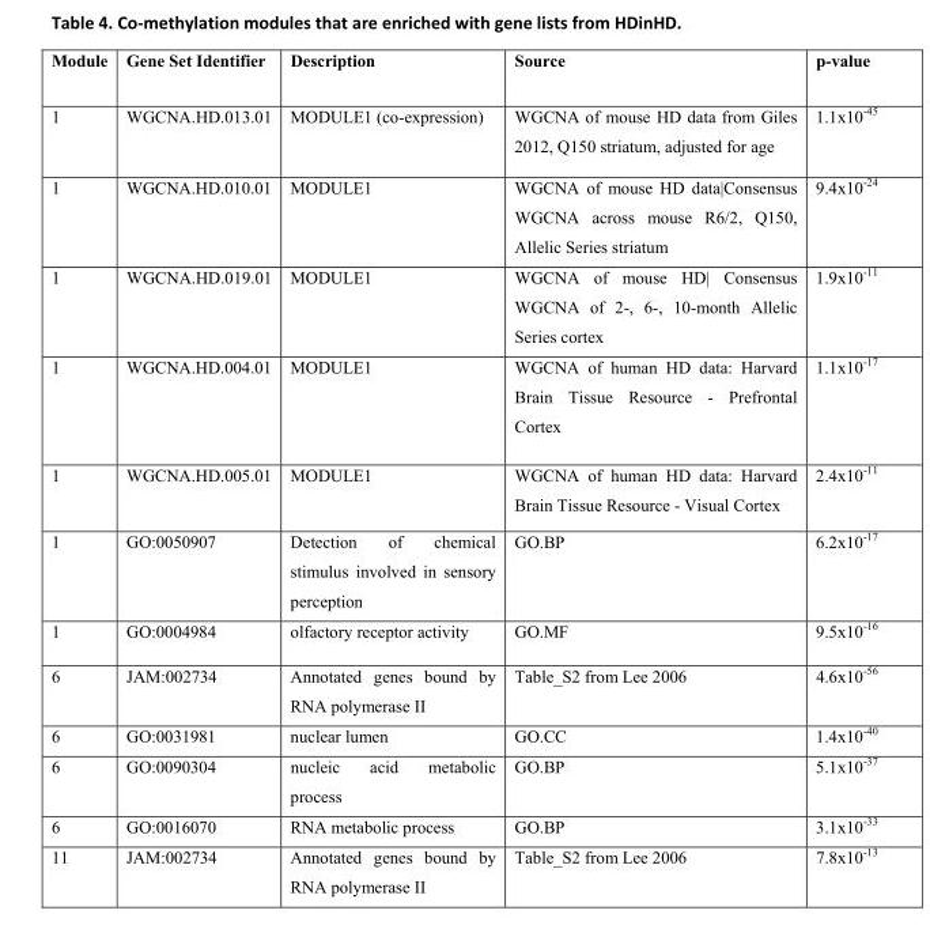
<table><thead><tr><td>Module</td><td>Gene Set Identifier</td><td>Description</td><td>Source</td><td>p-value</td></tr></thead><tbody><tr><td>1</td><td>WGCNA.HD.013.01</td><td>MODULE1 (co-expression)</td><td>WGCNA of mouse HD data from Giles 2012, Q150 striatum, adjusted for age</td><td>1.1x10-45</td></tr><tr><td>1</td><td>WGCNA.HD.010.01</td><td>MODULE1</td><td>WGCNA of mouse HD data|Consensus WGCNA across mouse R6/2, Q150, Allelic Series striatum</td><td>9.4x10-24</td></tr><tr><td>1</td><td>WGCNA.HD.019.01</td><td>MODULE1</td><td>WGCNA of mouse HD| Consensus WGCNA of 2-, 6-, 10-month Allelic Series cortex</td><td>1.9x10-11</td></tr><tr><td>1</td><td>WGCNA.HD.004.01</td><td>MODULE1</td><td>WGCNA of human HD data: Harvard Brain Tissue Resource - Prefrontal Cortex</td><td>1.1x10-17</td></tr><tr><td>1</td><td>WGCNA.HD.005.01</td><td>MODULE1</td><td>WGCNA of human HD data: Harvard Brain Tissue Resource - Visual Cortex</td><td>2.4x10-11</td></tr><tr><td>1</td><td>GO:0050907</td><td>Detection of chemical stimulus involved in sensory perception</td><td>GO.BP</td><td>6.2x10-17</td></tr><tr><td>1</td><td>GO:0004984</td><td>olfactory receptor activity</td><td>GO.MF</td><td>9.5x10-16</td></tr><tr><td>6</td><td>JAM:002734</td><td>Annotated genes bound by RNA polymerase II</td><td>Table_S2 from Lee 2006</td><td>4.6x10-56</td></tr><tr><td>6</td><td>GO:0031981</td><td>nuclear lumen</td><td>GO.CC</td><td>1.4x10-40</td></tr><tr><td>6</td><td>GO:0090304</td><td>nucleic acid metabolic process</td><td>GO.BP</td><td>5.1x10-37</td></tr><tr><td>6</td><td>GO:0016070</td><td>RNA metabolic process</td><td>GO.BP</td><td>3.1x10-33</td></tr><tr><td>11</td><td>JAM:002734</td><td>Annotated genes bound by RNA polymerase II</td><td>Table_S2 from Lee 2006</td><td>7.8x10-13</td></tr></tbody></table>